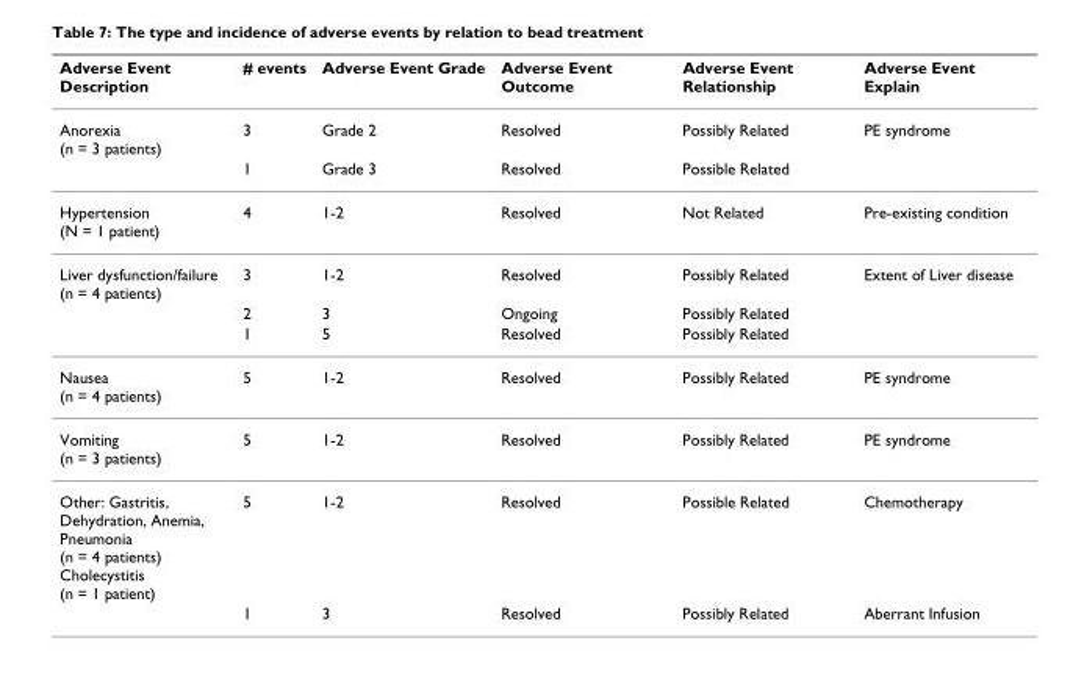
<table><thead><tr><td>Adverse Event Description</td><td># events</td><td>Adverse Event Grade</td><td>Adverse Event Outcome</td><td>Adverse Event Relationship</td><td>Adverse Event Explain</td></tr></thead><tbody><tr><td rowspan="2">Anorexia (n = 3 patients)</td><td>3</td><td>Grade 2</td><td>Resolved</td><td>Possibly Related</td><td>PE syndrome</td></tr><tr><td>1</td><td>Grade 3</td><td>Resolved</td><td>Possible Related</td><td></td></tr><tr><td>Hypertension (N = 1 patient)</td><td>4</td><td>1-2</td><td>Resolved</td><td>Not Related</td><td>Pre-existing condition</td></tr><tr><td rowspan="3">Liver dysfunction/failure (n = 4 patients)</td><td>3</td><td>1-2</td><td>Resolved</td><td>Possibly Related</td><td>Extent of Liver disease</td></tr><tr><td>2</td><td>3</td><td>Ongoing</td><td>Possibly Related</td><td></td></tr><tr><td>1</td><td>5</td><td>Resolved</td><td>Possibly Related</td><td></td></tr><tr><td>Nausea (n = 4 patients)</td><td>5</td><td>1-2</td><td>Resolved</td><td>Possibly Related</td><td>PE syndrome</td></tr><tr><td>Vomiting (n = 3 patients)</td><td>5</td><td>1-2</td><td>Resolved</td><td>Possibly Related</td><td>PE syndrome</td></tr><tr><td rowspan="2">Other: Gastritis, Dehydration, Anemia, Pneumonia (n = 4 patients) Cholecystitis (n = 1 patient)</td><td>5</td><td>1-2</td><td>Resolved</td><td>Possible Related</td><td>Chemotherapy</td></tr><tr><td>1</td><td>3</td><td>Resolved</td><td>Possibly Related</td><td>Aberrant Infusion</td></tr></tbody></table>